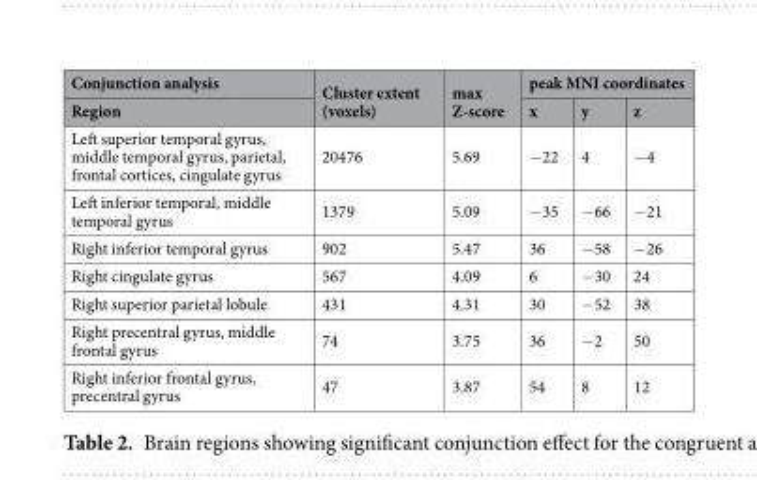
<table><thead><tr><td rowspan="2">Conjunction analysis Region</td><td rowspan="2">Cluster extent (voxels)</td><td rowspan="2">max Z-score</td><td colspan="3">peak MNI coordinates</td></tr><tr><td>x</td><td>y</td><td>z</td></tr></thead><tbody><tr><td>Left superior temporal gyrus, middle temporal gyrus, parietal, frontal cortices, cingulate gyrus</td><td>20476</td><td>5.69</td><td>−22</td><td>4</td><td>−4</td></tr><tr><td>Left inferior temporal, middle temporal gyrus</td><td>1379</td><td>5.09</td><td>−35</td><td>−66</td><td>−21</td></tr><tr><td>Right inferior temporal gyrus</td><td>902</td><td>5.47</td><td>36</td><td>−58</td><td>−26</td></tr><tr><td>Right cingulate gyrus</td><td>567</td><td>4.09</td><td>6</td><td>−30</td><td>24</td></tr><tr><td>Right superior parietal lobule</td><td>431</td><td>4.31</td><td>30</td><td>−52</td><td>38</td></tr><tr><td>Right precentral gyrus, middle frontal gyrus</td><td>74</td><td>3.75</td><td>36</td><td>−2</td><td>50</td></tr><tr><td>Right inferior frontal gyrus, precentral gyrus</td><td>47</td><td>3.87</td><td>54</td><td>8</td><td>12</td></tr></tbody></table>